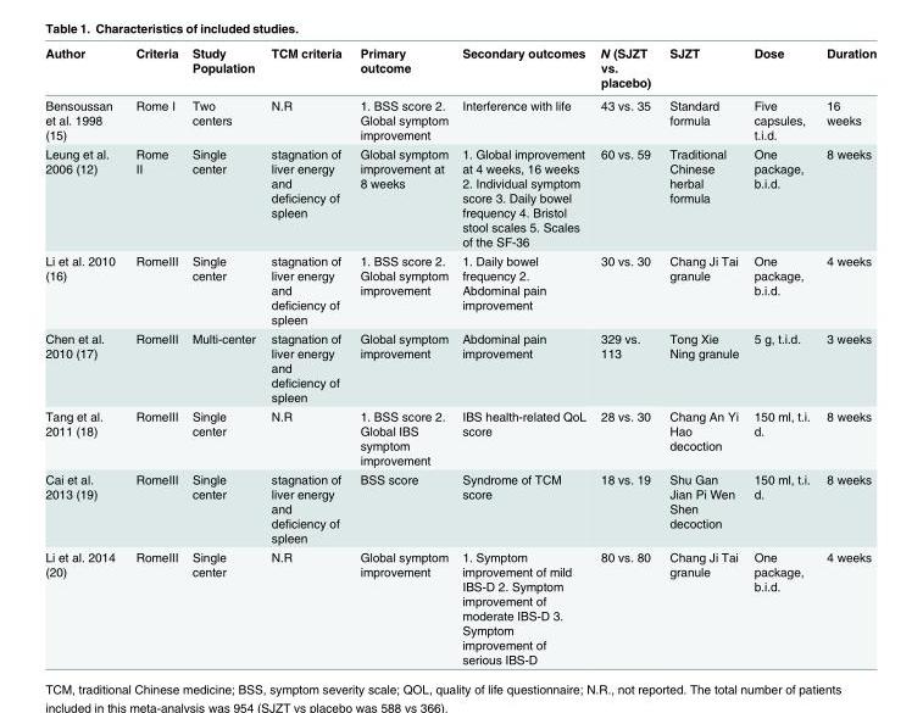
<table><thead><tr><td>Author</td><td>Criteria</td><td>Study Population</td><td>TCM criteria</td><td>Primary outcome</td><td>Secondary outcomes</td><td>N (SJZT vs. placebo)</td><td>SJZT</td><td>Dose</td><td>Duration</td></tr></thead><tbody><tr><td>Bensoussan et al. 1998 (15)</td><td>Rome I</td><td>Two centers</td><td>N.R</td><td>1. BSS score 2. Global symptom improvement</td><td>Interference with life</td><td>43 vs. 35</td><td>Standard formula</td><td>Five capsules, t.i.d.</td><td>16 weeks</td></tr><tr><td>Leung et al. 2006 (12)</td><td>Rome II</td><td>Single center</td><td>stagnation of liver energy and deficiency of spleen</td><td>Global symptom improvement at 8 weeks</td><td>1. Global improvement at 4 weeks, 16 weeks 2. Individual symptom score 3. Daily bowel frequency 4. Bristol stool scales 5. Scales of the SF-36</td><td>60 vs. 59</td><td>Traditional Chinese herbal formula</td><td>One package, b.i.d.</td><td>8 weeks</td></tr><tr><td>Li et al. 2010 (16)</td><td>RomeIII</td><td>Single center</td><td>stagnation of liver energy and deficiency of spleen</td><td>1. BSS score 2. Global symptom improvement</td><td>1. Daily bowel frequency 2. Abdominal pain improvement</td><td>30 vs. 30</td><td>Chang Ji Tai granule</td><td>One package, b.i.d.</td><td>4 weeks</td></tr><tr><td>Chen et al. 2010 (17)</td><td>RomeIII</td><td>Multi-center</td><td>stagnation of liver energy and deficiency of spleen</td><td>Global symptom improvement</td><td>Abdominal pain improvement</td><td>329 vs. 113</td><td>Tong Xie Ning granule</td><td>5 g, t.i.d.</td><td>3 weeks</td></tr><tr><td>Tang et al. 2011 (18)</td><td>RomeIII</td><td>Single center</td><td>N.R</td><td>1. BSS score 2. Global IBS symptom improvement</td><td>IBS health-related QoL score</td><td>28 vs. 30</td><td>Chang An Yi Hao decoction</td><td>150 ml, t.i. d.</td><td>8 weeks</td></tr><tr><td>Cai et al. 2013 (19)</td><td>RomeIII</td><td>Single center</td><td>stagnation of liver energy and deficiency of spleen</td><td>BSS score</td><td>Syndrome of TCM score</td><td>18 vs. 19</td><td>Shu Gan Jian Pi Wen Shen decoction</td><td>150 ml, t.i. d.</td><td>8 weeks</td></tr><tr><td>Li et al. 2014 (20)</td><td>RomeIII</td><td>Single center</td><td>N.R</td><td>Global symptom improvement</td><td>1. Symptom improvement of mild IBS-D 2. Symptom improvement of moderate IBS-D 3. Symptom improvement of serious IBS-D</td><td>80 vs. 80</td><td>Chang Ji Tai granule</td><td>One package, b.i.d.</td><td>4 weeks</td></tr></tbody></table>